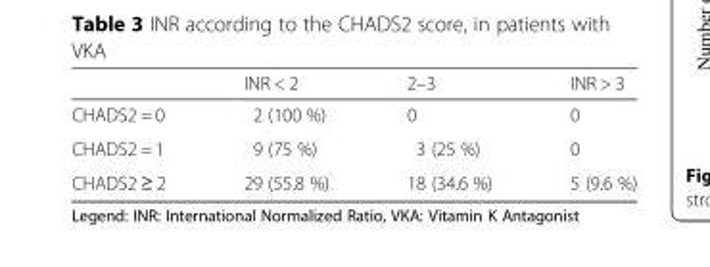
<table><thead><tr><td></td><td>INR &lt; 2</td><td>2–3</td><td>INR &gt; 3</td></tr></thead><tbody><tr><td>CHADS2 = 0</td><td>2 (100 %)</td><td>0</td><td>0</td></tr><tr><td>CHADS2 = 1</td><td>9 (75 %)</td><td>3 (25 %)</td><td>0</td></tr><tr><td>CHADS2 ≥ 2</td><td>29 (55.8 %)</td><td>18 (34.6 %)</td><td>5 (9.6 %)</td></tr></tbody></table>